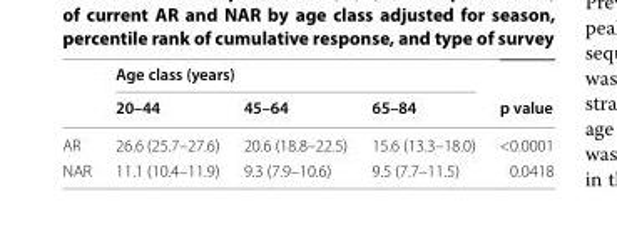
<table><thead><tr><td rowspan="2"></td><td colspan="3">Age class (years)</td><td rowspan="2">p value</td></tr><tr><td>20–44</td><td>45–64</td><td>65–84</td></tr></thead><tbody><tr><td>AR</td><td>26.6 (25.7–27.6)</td><td>20.6 (18.8–22.5)</td><td>15.6 (13.3–18.0)</td><td>&lt;0.0001</td></tr><tr><td>NAR</td><td>11.1 (10.4–11.9)</td><td>9.3 (7.9–10.6)</td><td>9.5 (7.7–11.5)</td><td>0.0418</td></tr></tbody></table>